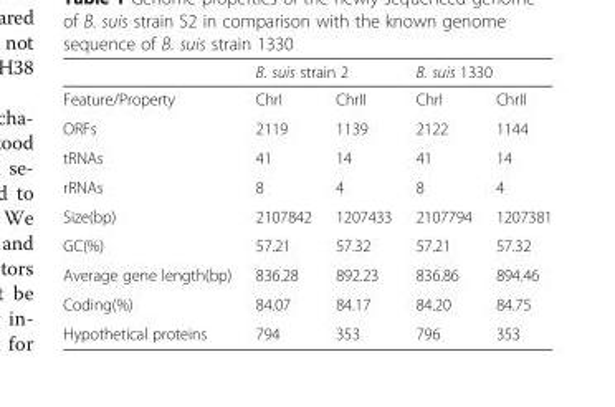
<table><thead><tr><td rowspan="2">Feature/Property</td><td colspan="2">B. suis strain 2</td><td colspan="2">B. suis 1330</td></tr><tr><td>ChrI</td><td>ChrII</td><td>ChrI</td><td>ChrII</td></tr></thead><tbody><tr><td>ORFs</td><td>2119</td><td>1139</td><td>2122</td><td>1144</td></tr><tr><td>tRNAs</td><td>41</td><td>14</td><td>41</td><td>14</td></tr><tr><td>rRNAs</td><td>8</td><td>4</td><td>8</td><td>4</td></tr><tr><td>Size(bp)</td><td>2107842</td><td>1207433</td><td>2107794</td><td>1207381</td></tr><tr><td>GC(%)</td><td>57.21</td><td>57.32</td><td>57.21</td><td>57.32</td></tr><tr><td>Average gene length(bp)</td><td>836.28</td><td>892.23</td><td>836.86</td><td>894.46</td></tr><tr><td>Coding(%)</td><td>84.07</td><td>84.17</td><td>84.20</td><td>84.75</td></tr><tr><td>Hypothetical proteins</td><td>794</td><td>353</td><td>796</td><td>353</td></tr></tbody></table>